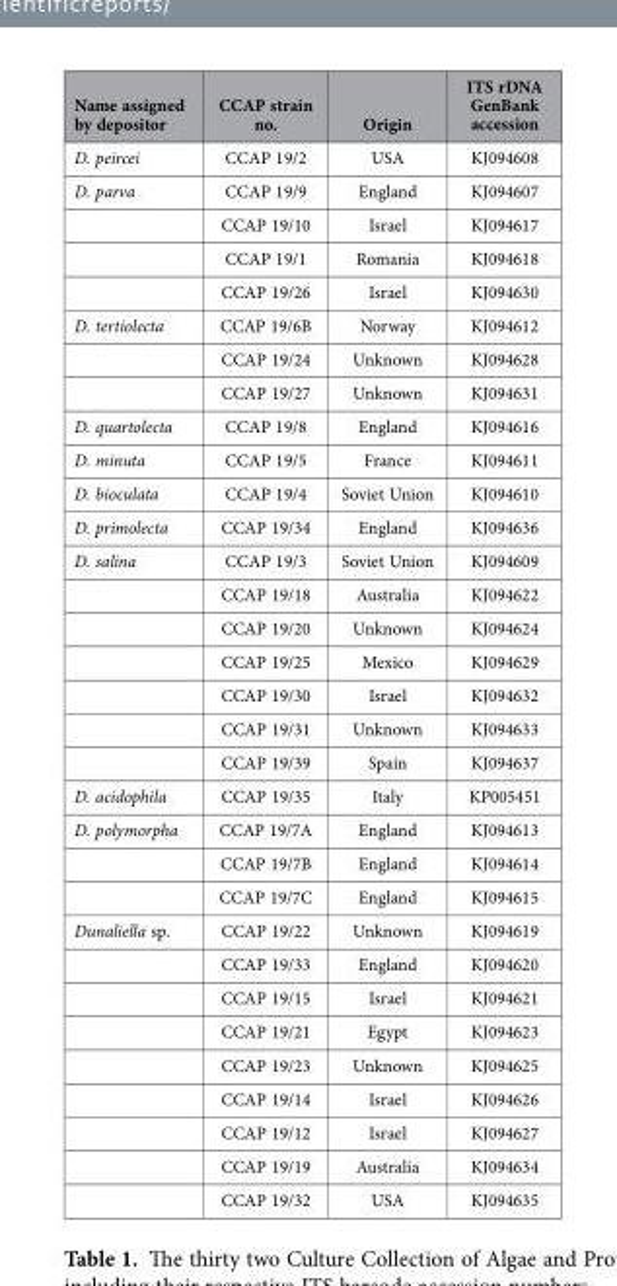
<table><thead><tr><td>Name assigned by depositor</td><td>CCAP strain no.</td><td>Origin</td><td>ITS rDNA GenBank accession</td></tr></thead><tbody><tr><td>D. peircei</td><td>CCAP 19/2</td><td>USA</td><td>KJ094608</td></tr><tr><td rowspan="4">D. parva</td><td>CCAP 19/9</td><td>England</td><td>KJ094607</td></tr><tr><td>CCAP 19/10</td><td>Israel</td><td>KJ094617</td></tr><tr><td>CCAP 19/1</td><td>Romania</td><td>KJ094618</td></tr><tr><td>CCAP 19/26</td><td>Israel</td><td>KJ094630</td></tr><tr><td rowspan="3">D. tertiolecta</td><td>CCAP 19/6B</td><td>Norway</td><td>KJ094612</td></tr><tr><td>CCAP 19/24</td><td>Unknown</td><td>KJ094628</td></tr><tr><td>CCAP 19/27</td><td>Unknown</td><td>KJ094631</td></tr><tr><td>D. quartolecta</td><td>CCAP 19/8</td><td>England</td><td>KJ094616</td></tr><tr><td>D. minuta</td><td>CCAP 19/5</td><td>France</td><td>KJ094611</td></tr><tr><td>D. bioculata</td><td>CCAP 19/4</td><td>Soviet Union</td><td>KJ094610</td></tr><tr><td>D. primolecta</td><td>CCAP 19/34</td><td>England</td><td>KJ094636</td></tr><tr><td rowspan="7">D. salina</td><td>CCAP 19/3</td><td>Soviet Union</td><td>KJ094609</td></tr><tr><td>CCAP 19/18</td><td>Australia</td><td>KJ094622</td></tr><tr><td>CCAP 19/20</td><td>Unknown</td><td>KJ094624</td></tr><tr><td>CCAP 19/25</td><td>Mexico</td><td>KJ094629</td></tr><tr><td>CCAP 19/30</td><td>Israel</td><td>KJ094632</td></tr><tr><td>CCAP 19/31</td><td>Unknown</td><td>KJ094633</td></tr><tr><td>CCAP 19/39</td><td>Spain</td><td>KJ094637</td></tr><tr><td>D. acidophila</td><td>CCAP 19/35</td><td>Italy</td><td>KP005451</td></tr><tr><td rowspan="3">D. polymorpha</td><td>CCAP 19/7A</td><td>England</td><td>KJ094613</td></tr><tr><td>CCAP 19/7B</td><td>England</td><td>KJ094614</td></tr><tr><td>CCAP 19/7C</td><td>England</td><td>KJ094615</td></tr><tr><td rowspan="9">Dunaliella sp.</td><td>CCAP 19/22</td><td>Unknown</td><td>KJ094619</td></tr><tr><td>CCAP 19/33</td><td>England</td><td>KJ094620</td></tr><tr><td>CCAP 19/15</td><td>Israel</td><td>KJ094621</td></tr><tr><td>CCAP 19/21</td><td>Egypt</td><td>KJ094623</td></tr><tr><td>CCAP 19/23</td><td>Unknown</td><td>KJ094625</td></tr><tr><td>CCAP 19/14</td><td>Israel</td><td>KJ094626</td></tr><tr><td>CCAP 19/12</td><td>Israel</td><td>KJ094627</td></tr><tr><td>CCAP 19/19</td><td>Australia</td><td>KJ094634</td></tr><tr><td>CCAP 19/32</td><td>USA</td><td>KJ094635</td></tr></tbody></table>